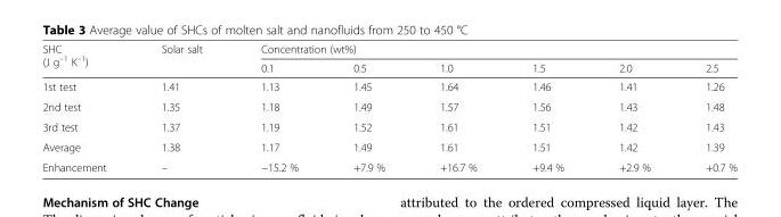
<table><thead><tr><td rowspan="2">SHC (J g<sup>–1</sup> K<sup>–1</sup>)</td><td rowspan="2">Solar salt</td><td colspan="6">Concentration (wt%)</td></tr><tr><td>0.1</td><td>0.5</td><td>1.0</td><td>1.5</td><td>2.0</td><td>2.5</td></tr></thead><tbody><tr><td>1st test</td><td>1.41</td><td>1.13</td><td>1.45</td><td>1.64</td><td>1.46</td><td>1.41</td><td>1.26</td></tr><tr><td>2nd test</td><td>1.35</td><td>1.18</td><td>1.49</td><td>1.57</td><td>1.56</td><td>1.43</td><td>1.48</td></tr><tr><td>3rd test</td><td>1.37</td><td>1.19</td><td>1.52</td><td>1.61</td><td>1.51</td><td>1.42</td><td>1.43</td></tr><tr><td>Average</td><td>1.38</td><td>1.17</td><td>1.49</td><td>1.61</td><td>1.51</td><td>1.42</td><td>1.39</td></tr><tr><td>Enhancement</td><td>–</td><td>−15.2 %</td><td>+7.9 %</td><td>+16.7 %</td><td>+9.4 %</td><td>+2.9 %</td><td>+0.7 %</td></tr></tbody></table>